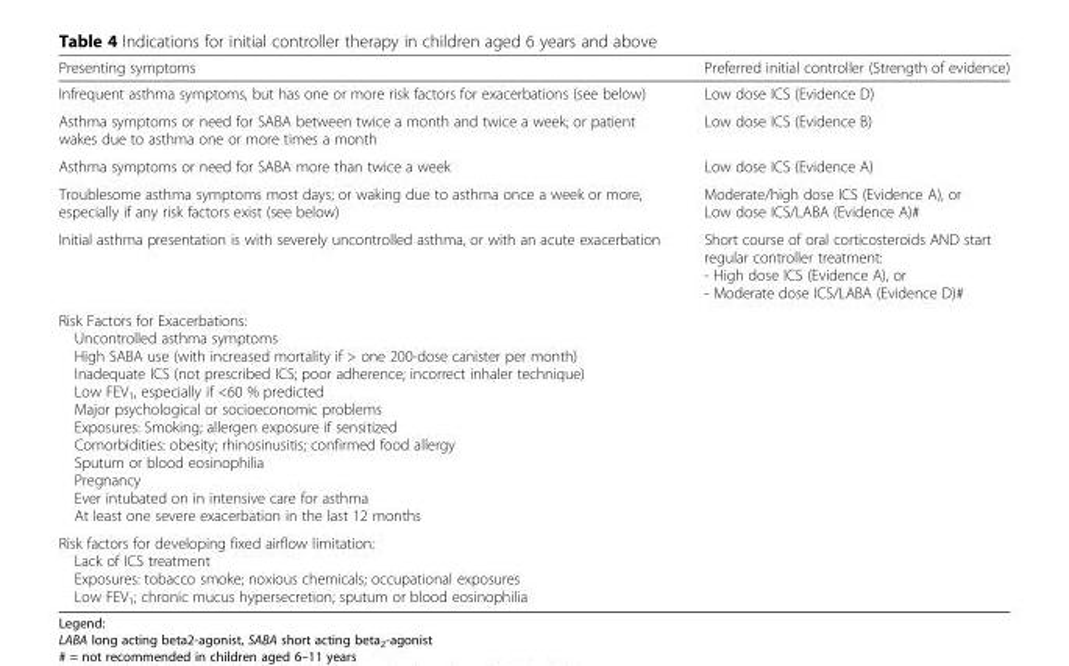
<table><thead><tr><td>Presenting symptoms</td><td>Preferred initial controller (Strength of evidence)</td></tr></thead><tbody><tr><td>Infrequent asthma symptoms, but has one or more risk factors for exacerbations (see below)</td><td>Low dose ICS (Evidence D)</td></tr><tr><td>Asthma symptoms or need for SABA between twice a month and twice a week; or patient wakes due to asthma one or more times a month</td><td>Low dose ICS (Evidence B)</td></tr><tr><td>Asthma symptoms or need for SABA more than twice a week</td><td>Low dose ICS (Evidence A)</td></tr><tr><td>Troublesome asthma symptoms most days; or waking due to asthma once a week or more, especially if any risk factors exist (see below)</td><td>Moderate/high dose ICS (Evidence A), or Low dose ICS/LABA (Evidence A)#</td></tr><tr><td>Initial asthma presentation is with severely uncontrolled asthma, or with an acute exacerbation</td><td>Short course of oral corticosteroids AND start regular controller treatment: - High dose ICS (Evidence A), or - Moderate dose ICS/LABA (Evidence D)#</td></tr><tr><td colspan="2">Risk Factors for Exacerbations: Uncontrolled asthma symptoms High SABA use (with increased mortality if &gt; one 200-dose canister per month) Inadequate ICS (not prescribed ICS; poor adherence; incorrect inhaler technique) Low FEV<sub>1</sub>, especially if &lt;60 % predicted Major psychological or socioeconomic problems Exposures: Smoking; allergen exposure if sensitized Comorbidities: obesity; rhinosinusitis; confirmed food allergy Sputum or blood eosinophilia Pregnancy Ever intubated on in intensive care for asthma At least one severe exacerbation in the last 12 months</td></tr><tr><td colspan="2">Risk factors for developing fixed airflow limitation: Lack of ICS treatment Exposures: tobacco smoke; noxious chemicals; occupational exposures Low FEV<sub>1</sub>; chronic mucus hypersecretion; sputum or blood eosinophilia</td></tr></tbody></table>